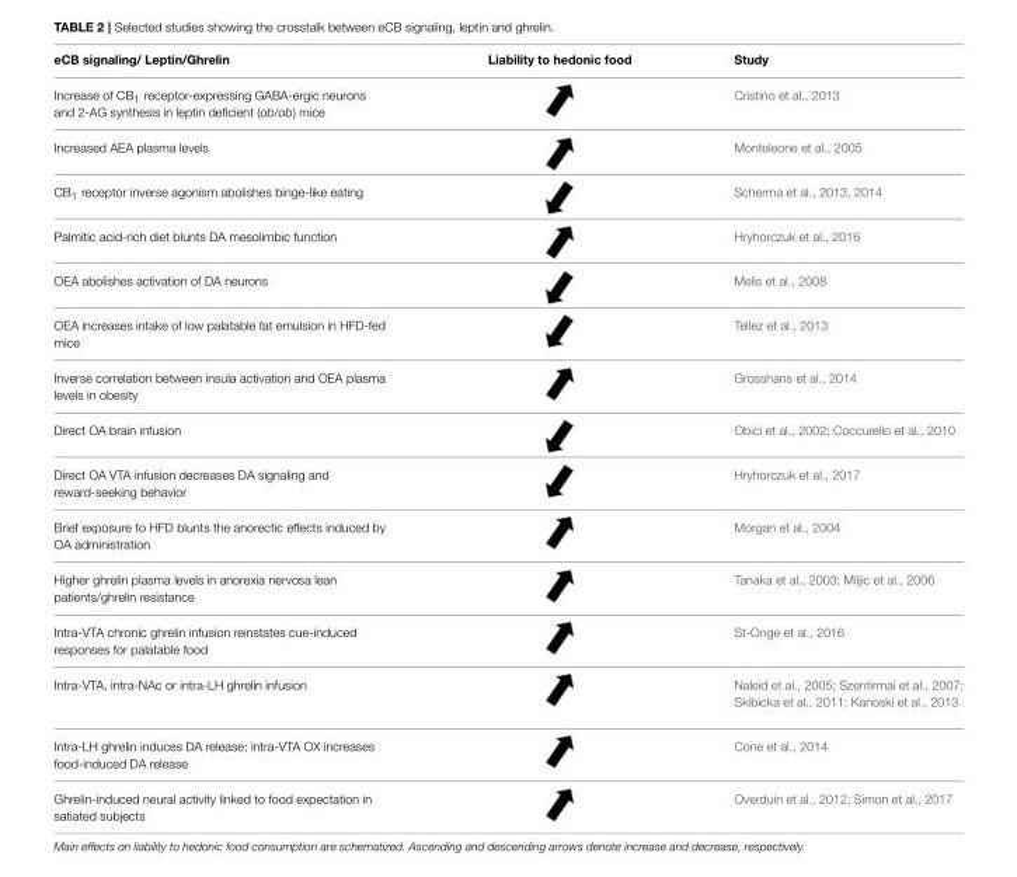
<table><thead><tr><td>eCB signaling/ Leptin/Ghrelin</td><td>Liability to hedonic food</td><td>Study</td></tr></thead><tbody><tr><td>Increase of CB<sub>1</sub> receptor-expressing GABA-ergic neurons and 2-AG synthesis in leptin deficient (ob/ob) mice</td><td></td><td>Cristino et al., 2013</td></tr><tr><td>Increased AEA plasma levels</td><td></td><td>Monteleone et al., 2005</td></tr><tr><td>CB<sub>1</sub> receptor inverse agonism abolishes binge-like eating</td><td></td><td>Scherma et al., 2013, 2014</td></tr><tr><td>Palmitic acid-rich diet blunts DA mesolimbic function</td><td></td><td>Hryhorczuk et al., 2016</td></tr><tr><td>OEA abolishes activation of DA neurons</td><td></td><td>Melis et al., 2008</td></tr><tr><td>OEA increases intake of low palatable fat emulsion in HFD-fed mice</td><td></td><td>Tellez et al., 2013</td></tr><tr><td>Inverse correlation between insula activation and OEA plasma levels in obesity</td><td></td><td>Grosshans et al., 2014</td></tr><tr><td>Direct OA brain infusion</td><td></td><td>Obici et al., 2002; Coccurello et al., 2010</td></tr><tr><td>Direct OA VTA infusion decreases DA signaling and reward-seeking behavior</td><td></td><td>Hryhorczuk et al., 2017</td></tr><tr><td>Brief exposure to HFD blunts the anorectic effects induced by OA administration</td><td></td><td>Morgan et al., 2004</td></tr><tr><td>Higher ghrelin plasma levels in anorexia nervosa lean patients/ghrelin resistance</td><td></td><td>Tanaka et al., 2003; Miljic et al., 2006</td></tr><tr><td>Intra-VTA chronic ghrelin infusion reinstates cue-induced responses for palatable food</td><td></td><td>St-Onge et al., 2016</td></tr><tr><td>Intra-VTA, intra-NAc or intra-LH ghrelin infusion</td><td></td><td>Naleid et al., 2005; Szentirmai et al., 2007; Skibicka et al., 2011; Kanoski et al., 2013</td></tr><tr><td>Intra-LH ghrelin induces DA release; intra-VTA OX increases food-induced DA release</td><td></td><td>Cone et al., 2014</td></tr><tr><td>Ghrelin-induced neural activity linked to food expectation in satiated subjects</td><td></td><td>Overduin et al., 2012; Simon et al., 2017</td></tr></tbody></table>